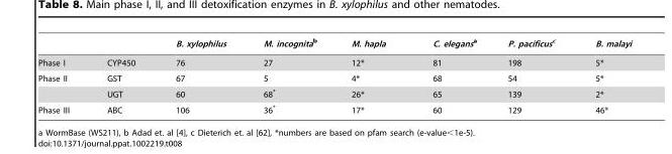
<table><thead><tr><td></td><td></td><td>B. xylophilus</td><td>M. incognita<sup>b</sup></td><td>M. hapla</td><td>C. elegans<sup>a</sup></td><td>P. pacificus<sup>c</sup></td><td>B. malayi</td></tr></thead><tbody><tr><td>Phase I</td><td>CYP450</td><td>76</td><td>27</td><td>12*</td><td>81</td><td>198</td><td>5*</td></tr><tr><td rowspan="2">Phase II</td><td>GST</td><td>67</td><td>5</td><td>4*</td><td>68</td><td>54</td><td>5*</td></tr><tr><td>UGT</td><td>60</td><td>68*</td><td>26*</td><td>65</td><td>139</td><td>2*</td></tr><tr><td>Phase III</td><td>ABC</td><td>106</td><td>36*</td><td>17*</td><td>60</td><td>129</td><td>46*</td></tr></tbody></table>